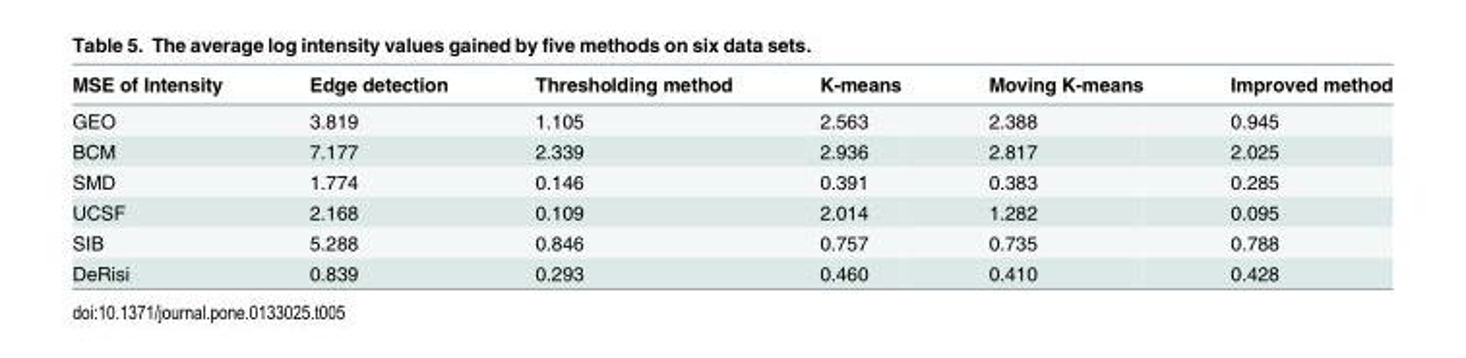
<table><thead><tr><td>MSE of Intensity</td><td>Edge detection</td><td>Thresholding method</td><td>K-means</td><td>Moving K-means</td><td>Improved method</td></tr></thead><tbody><tr><td>GEO</td><td>3.819</td><td>1.105</td><td>2.563</td><td>2.388</td><td>0.945</td></tr><tr><td>BCM</td><td>7.177</td><td>2.339</td><td>2.936</td><td>2.817</td><td>2.025</td></tr><tr><td>SMD</td><td>1.774</td><td>0.146</td><td>0.391</td><td>0.383</td><td>0.285</td></tr><tr><td>UCSF</td><td>2.168</td><td>0.109</td><td>2.014</td><td>1.282</td><td>0.095</td></tr><tr><td>SIB</td><td>5.288</td><td>0.846</td><td>0.757</td><td>0.735</td><td>0.788</td></tr><tr><td>DeRisi</td><td>0.839</td><td>0.293</td><td>0.460</td><td>0.410</td><td>0.428</td></tr></tbody></table>